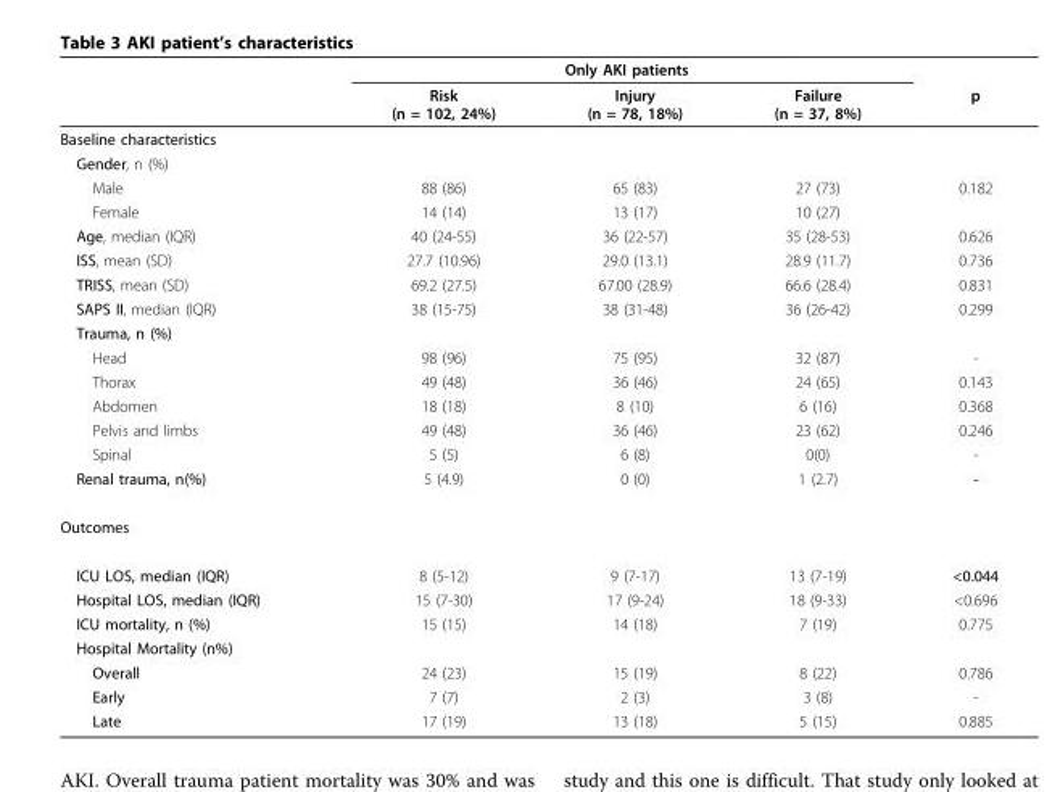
<table><thead><tr><td rowspan="2"></td><td colspan="3">Only AKI patients</td><td rowspan="2">p</td></tr><tr><td>Risk (n = 102, 24%)</td><td>Injury (n = 78, 18%)</td><td>Failure (n = 37, 8%)</td></tr></thead><tbody><tr><td colspan="5">Baseline characteristics</td></tr><tr><td colspan="5">Gender, n (%)</td></tr><tr><td>Male</td><td>88 (86)</td><td>65 (83)</td><td>27 (73)</td><td>0.182</td></tr><tr><td>Female</td><td>14 (14)</td><td>13 (17)</td><td>10 (27)</td><td></td></tr><tr><td>Age, median (IQR)</td><td>40 (24-55)</td><td>36 (22-57)</td><td>35 (28-53)</td><td>0.626</td></tr><tr><td>ISS, mean (SD)</td><td>27.7 (10.96)</td><td>29.0 (13.1)</td><td>28.9 (11.7)</td><td>0.736</td></tr><tr><td>TRISS, mean (SD)</td><td>69.2 (27.5)</td><td>67.00 (28.9)</td><td>66.6 (28.4)</td><td>0.831</td></tr><tr><td>SAPS II, median (IQR)</td><td>38 (15-75)</td><td>38 (31-48)</td><td>36 (26-42)</td><td>0.299</td></tr><tr><td colspan="5">Trauma, n (%)</td></tr><tr><td>Head</td><td>98 (96)</td><td>75 (95)</td><td>32 (87)</td><td>-</td></tr><tr><td>Thorax</td><td>49 (48)</td><td>36 (46)</td><td>24 (65)</td><td>0.143</td></tr><tr><td>Abdomen</td><td>18 (18)</td><td>8 (10)</td><td>6 (16)</td><td>0.368</td></tr><tr><td>Pelvis and limbs</td><td>49 (48)</td><td>36 (46)</td><td>23 (62)</td><td>0.246</td></tr><tr><td>Spinal</td><td>5 (5)</td><td>6 (8)</td><td>0(0)</td><td>-</td></tr><tr><td>Renal trauma, n(%)</td><td>5 (4.9)</td><td>0 (0)</td><td>1 (2.7)</td><td>-</td></tr><tr><td colspan="5">Outcomes</td></tr><tr><td>ICU LOS, median (IQR)</td><td>8 (5-12)</td><td>9 (7-17)</td><td>13 (7-19)</td><td>&lt;0.044</td></tr><tr><td>Hospital LOS, median (IQR)</td><td>15 (7-30)</td><td>17 (9-24)</td><td>18 (9-33)</td><td>&lt;0.696</td></tr><tr><td>ICU mortality, n (%)</td><td>15 (15)</td><td>14 (18)</td><td>7 (19)</td><td>0.775</td></tr><tr><td colspan="5">Hospital Mortality (n%)</td></tr><tr><td>Overall</td><td>24 (23)</td><td>15 (19)</td><td>8 (22)</td><td>0.786</td></tr><tr><td>Early</td><td>7 (7)</td><td>2 (3)</td><td>3 (8)</td><td>-</td></tr><tr><td>Late</td><td>17 (19)</td><td>13 (18)</td><td>5 (15)</td><td>0.885</td></tr></tbody></table>